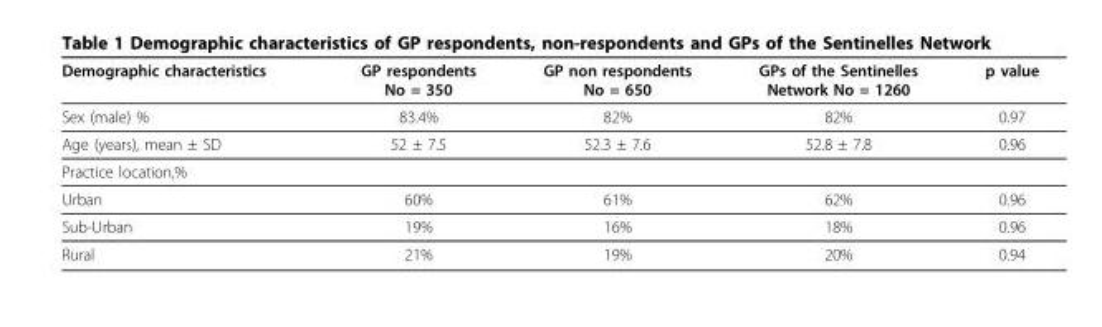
<table><thead><tr><td>Demographic characteristics</td><td>GP respondents No = 350</td><td>GP non respondents No = 650</td><td>GPs of the Sentinelles Network No = 1260</td><td>p value</td></tr></thead><tbody><tr><td>Sex (male) %</td><td>83.4%</td><td>82%</td><td>82%</td><td>0.97</td></tr><tr><td>Age (years), mean ± SD</td><td>52 ± 7.5</td><td>52.3 ± 7.6</td><td>52.8 ± 7.8</td><td>0.96</td></tr><tr><td colspan="5">Practice location,%</td></tr><tr><td>Urban</td><td>60%</td><td>61%</td><td>62%</td><td>0.96</td></tr><tr><td>Sub-Urban</td><td>19%</td><td>16%</td><td>18%</td><td>0.96</td></tr><tr><td>Rural</td><td>21%</td><td>19%</td><td>20%</td><td>0.94</td></tr></tbody></table>